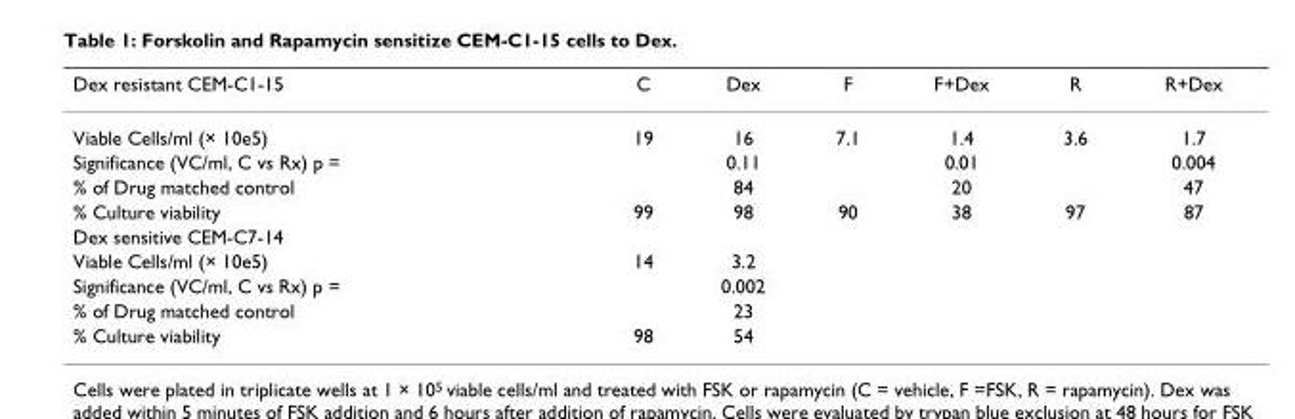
<table><thead><tr><td>Dex resistant CEM-C1-15</td><td>C</td><td>Dex</td><td>F</td><td>F+Dex</td><td>R</td><td>R+Dex</td></tr></thead><tbody><tr><td>Viable Cells/ml (× 10e5)</td><td>19</td><td>16</td><td>7.1</td><td>1.4</td><td>3.6</td><td>1.7</td></tr><tr><td>Significance (VC/ml, C vs Rx) p =</td><td></td><td>0.11</td><td></td><td>0.01</td><td></td><td>0.004</td></tr><tr><td>% of Drug matched control</td><td></td><td>84</td><td></td><td>20</td><td></td><td>47</td></tr><tr><td>% Culture viability</td><td>99</td><td>98</td><td>90</td><td>38</td><td>97</td><td>87</td></tr><tr><td colspan="7">Dex sensitive CEM-C7-14</td></tr><tr><td>Viable Cells/ml (× 10e5)</td><td>14</td><td>3.2</td><td></td><td></td><td></td><td></td></tr><tr><td>Significance (VC/ml, C vs Rx) p =</td><td></td><td>0.002</td><td></td><td></td><td></td><td></td></tr><tr><td>% of Drug matched control</td><td></td><td>23</td><td></td><td></td><td></td><td></td></tr><tr><td>% Culture viability</td><td>98</td><td>54</td><td></td><td></td><td></td><td></td></tr></tbody></table>